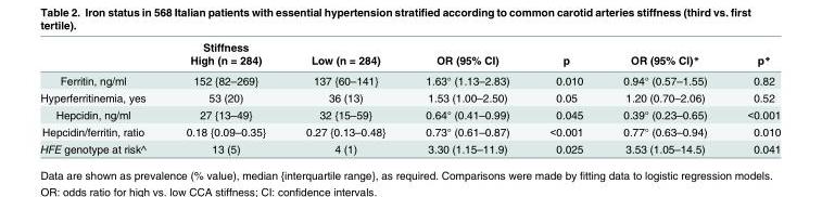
<table><thead><tr><td rowspan="2"></td><td rowspan="2">Stiffness High (n = 284)</td><td rowspan="2">Low (n = 284)</td><td rowspan="2">OR (95% CI)</td><td rowspan="2">p</td><td rowspan="2">OR (95% CI)*</td><td rowspan="2">p*</td></tr><tr></tr></thead><tbody><tr><td>Ferritin, ng/ml</td><td>152 {82–269}</td><td>137 {60–141}</td><td>1.63° (1.13–2.83)</td><td>0.010</td><td>0.94° (0.57–1.55)</td><td>0.82</td></tr><tr><td>Hyperferritinemia, yes</td><td>53 (20)</td><td>36 (13)</td><td>1.53 (1.00–2.50)</td><td>0.05</td><td>1.20 (0.70–2.06)</td><td>0.52</td></tr><tr><td>Hepcidin, ng/ml</td><td>27 {13–49}</td><td>32 {15–59}</td><td>0.64° (0.41–0.99)</td><td>0.045</td><td>0.39° (0.23–0.65)</td><td>&lt;0.001</td></tr><tr><td>Hepcidin/ferritin, ratio</td><td>0.18 {0.09–0.35}</td><td>0.27 {0.13–0.48}</td><td>0.73° (0.61–0.87)</td><td>&lt;0.001</td><td>0.77° (0.63–0.94)</td><td>0.010</td></tr><tr><td>HFE genotype at risk^</td><td>13 (5)</td><td>4 (1)</td><td>3.30 (1.15–11.9)</td><td>0.025</td><td>3.53 (1.05–14.5)</td><td>0.041</td></tr></tbody></table>